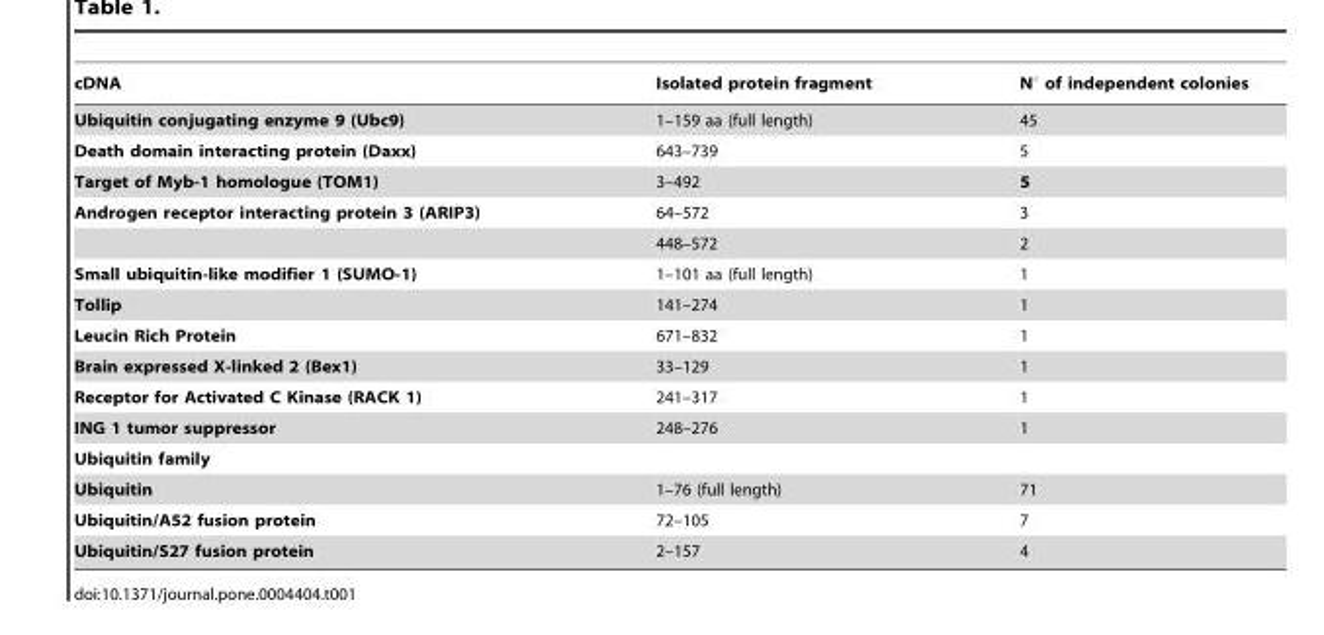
<table><thead><tr><td>cDNA</td><td>Isolated protein fragment</td><td>N° of independent colonies</td></tr></thead><tbody><tr><td>Ubiquitin conjugating enzyme 9 (Ubc9)</td><td>1–159 aa (full length)</td><td>45</td></tr><tr><td>Death domain interacting protein (Daxx)</td><td>643–739</td><td>5</td></tr><tr><td>Target of Myb-1 homologue (TOM1)</td><td>3–492</td><td>5</td></tr><tr><td rowspan="2">Androgen receptor interacting protein 3 (ARIP3)</td><td>64–572</td><td>3</td></tr><tr><td>448–572</td><td>2</td></tr><tr><td>Small ubiquitin-like modifier 1 (SUMO-1)</td><td>1–101 aa (full length)</td><td>1</td></tr><tr><td>Tollip</td><td>141–274</td><td>1</td></tr><tr><td>Leucin Rich Protein</td><td>671–832</td><td>1</td></tr><tr><td>Brain expressed X-linked 2 (Bex1)</td><td>33–129</td><td>1</td></tr><tr><td>Receptor for Activated C Kinase (RACK 1)</td><td>241–317</td><td>1</td></tr><tr><td>ING 1 tumor suppressor</td><td>248–276</td><td>1</td></tr><tr><td colspan="3">Ubiquitin family</td></tr><tr><td>Ubiquitin</td><td>1–76 (full length)</td><td>71</td></tr><tr><td>Ubiquitin/A52 fusion protein</td><td>72–105</td><td>7</td></tr><tr><td>Ubiquitin/S27 fusion protein</td><td>2–157</td><td>4</td></tr></tbody></table>